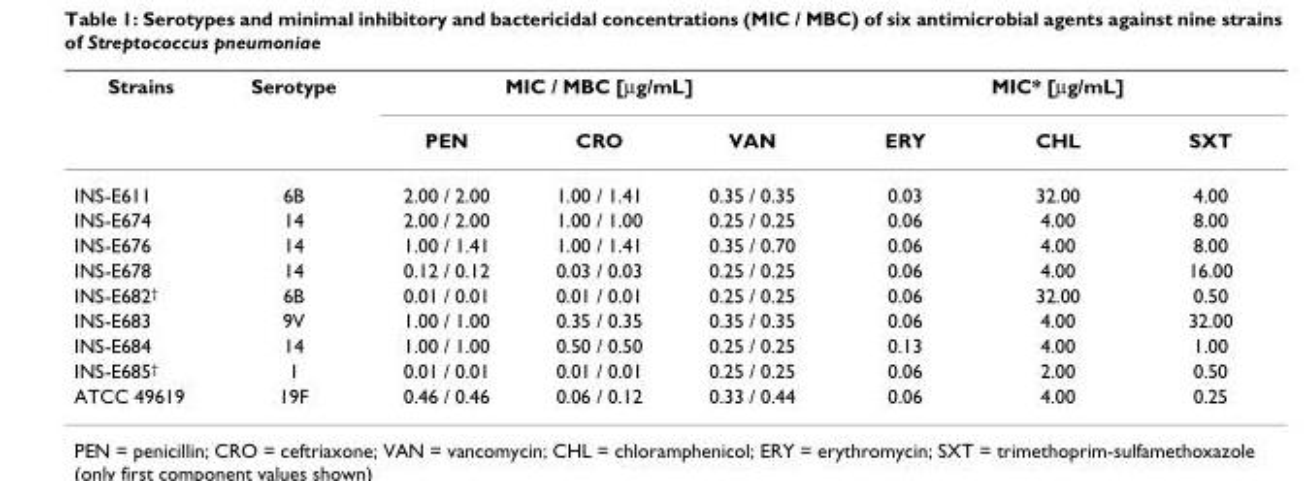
<table><thead><tr><td rowspan="2">Strains</td><td rowspan="2">Serotype</td><td colspan="3">MIC / MBC [µg/mL]</td><td colspan="3">MIC* [µg/mL]</td></tr><tr><td>PEN</td><td>CRO</td><td>VAN</td><td>ERY</td><td>CHL</td><td>SXT</td></tr></thead><tbody><tr><td>INS-E611</td><td>6B</td><td>2.00 / 2.00</td><td>1.00 / 1.41</td><td>0.35 / 0.35</td><td>0.03</td><td>32.00</td><td>4.00</td></tr><tr><td>INS-E674</td><td>14</td><td>2.00 / 2.00</td><td>1.00 / 1.00</td><td>0.25 / 0.25</td><td>0.06</td><td>4.00</td><td>8.00</td></tr><tr><td>INS-E676</td><td>14</td><td>1.00 / 1.41</td><td>1.00 / 1.41</td><td>0.35 / 0.70</td><td>0.06</td><td>4.00</td><td>8.00</td></tr><tr><td>INS-E678</td><td>14</td><td>0.12 / 0.12</td><td>0.03 / 0.03</td><td>0.25 / 0.25</td><td>0.06</td><td>4.00</td><td>16.00</td></tr><tr><td>INS-E682†</td><td>6B</td><td>0.01 / 0.01</td><td>0.01 / 0.01</td><td>0.25 / 0.25</td><td>0.06</td><td>32.00</td><td>0.50</td></tr><tr><td>INS-E683</td><td>9V</td><td>1.00 / 1.00</td><td>0.35 / 0.35</td><td>0.35 / 0.35</td><td>0.06</td><td>4.00</td><td>32.00</td></tr><tr><td>INS-E684</td><td>14</td><td>1.00 / 1.00</td><td>0.50 / 0.50</td><td>0.25 / 0.25</td><td>0.13</td><td>4.00</td><td>1.00</td></tr><tr><td>INS-E685†</td><td>1</td><td>0.01 / 0.01</td><td>0.01 / 0.01</td><td>0.25 / 0.25</td><td>0.06</td><td>2.00</td><td>0.50</td></tr><tr><td>ATCC 49619</td><td>19F</td><td>0.46 / 0.46</td><td>0.06 / 0.12</td><td>0.33 / 0.44</td><td>0.06</td><td>4.00</td><td>0.25</td></tr></tbody></table>